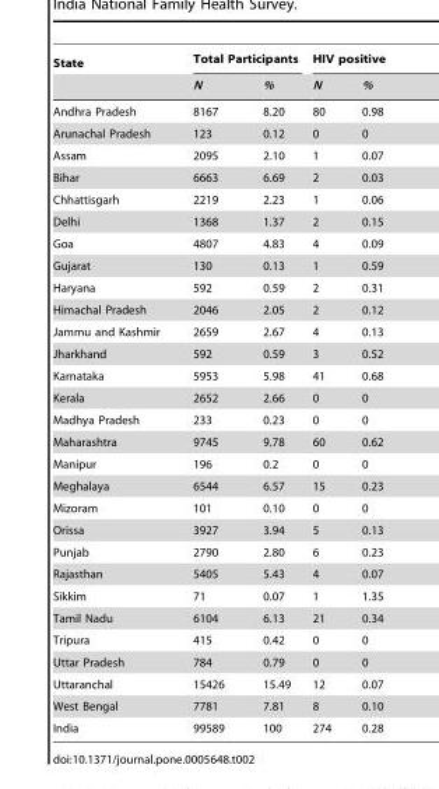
<table><thead><tr><td rowspan="2">State</td><td colspan="2">Total Participants</td><td colspan="2">HIV positive</td></tr><tr><td>N</td><td>%</td><td>N</td><td>%</td></tr></thead><tbody><tr><td>Andhra Pradesh</td><td>8167</td><td>8.20</td><td>80</td><td>0.98</td></tr><tr><td>Arunachal Pradesh</td><td>123</td><td>0.12</td><td>0</td><td>0</td></tr><tr><td>Assam</td><td>2095</td><td>2.10</td><td>1</td><td>0.07</td></tr><tr><td>Bihar</td><td>6663</td><td>6.69</td><td>2</td><td>0.03</td></tr><tr><td>Chhattisgarh</td><td>2219</td><td>2.23</td><td>1</td><td>0.06</td></tr><tr><td>Delhi</td><td>1368</td><td>1.37</td><td>2</td><td>0.15</td></tr><tr><td>Goa</td><td>4807</td><td>4.83</td><td>4</td><td>0.09</td></tr><tr><td>Gujarat</td><td>130</td><td>0.13</td><td>1</td><td>0.59</td></tr><tr><td>Haryana</td><td>592</td><td>0.59</td><td>2</td><td>0.31</td></tr><tr><td>Himachal Pradesh</td><td>2046</td><td>2.05</td><td>2</td><td>0.12</td></tr><tr><td>Jammu and Kashmir</td><td>2659</td><td>2.67</td><td>4</td><td>0.13</td></tr><tr><td>Jharkhand</td><td>592</td><td>0.59</td><td>3</td><td>0.52</td></tr><tr><td>Karnataka</td><td>5953</td><td>5.98</td><td>41</td><td>0.68</td></tr><tr><td>Kerala</td><td>2652</td><td>2.66</td><td>0</td><td>0</td></tr><tr><td>Madhya Pradesh</td><td>233</td><td>0.23</td><td>0</td><td>0</td></tr><tr><td>Maharashtra</td><td>9745</td><td>9.78</td><td>60</td><td>0.62</td></tr><tr><td>Manipur</td><td>196</td><td>0.2</td><td>0</td><td>0</td></tr><tr><td>Meghalaya</td><td>6544</td><td>6.57</td><td>15</td><td>0.23</td></tr><tr><td>Mizoram</td><td>101</td><td>0.10</td><td>0</td><td>0</td></tr><tr><td>Orissa</td><td>3927</td><td>3.94</td><td>5</td><td>0.13</td></tr><tr><td>Punjab</td><td>2790</td><td>2.80</td><td>6</td><td>0.23</td></tr><tr><td>Rajasthan</td><td>5405</td><td>5.43</td><td>4</td><td>0.07</td></tr><tr><td>Sikkim</td><td>71</td><td>0.07</td><td>1</td><td>1.35</td></tr><tr><td>Tamil Nadu</td><td>6104</td><td>6.13</td><td>21</td><td>0.34</td></tr><tr><td>Tripura</td><td>415</td><td>0.42</td><td>0</td><td>0</td></tr><tr><td>Uttar Pradesh</td><td>784</td><td>0.79</td><td>0</td><td>0</td></tr><tr><td>Uttaranchal</td><td>15426</td><td>15.49</td><td>12</td><td>0.07</td></tr><tr><td>West Bengal</td><td>7781</td><td>7.81</td><td>8</td><td>0.10</td></tr><tr><td>India</td><td>99589</td><td>100</td><td>274</td><td>0.28</td></tr></tbody></table>